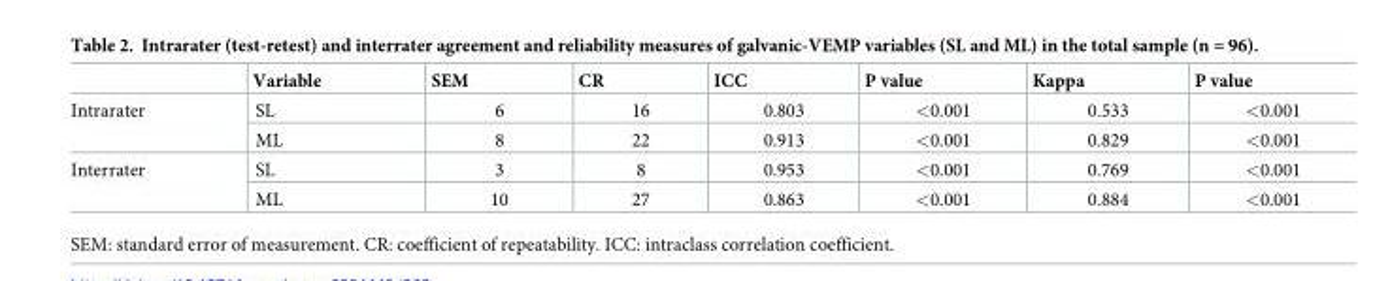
<table><thead><tr><td></td><td>Variable</td><td>SEM</td><td>CR</td><td>ICC</td><td>P value</td><td>Kappa</td><td>P value</td></tr></thead><tbody><tr><td rowspan="2">Intrarater</td><td>SL</td><td>6</td><td>16</td><td>0.803</td><td>&lt;0.001</td><td>0.533</td><td>&lt;0.001</td></tr><tr><td>ML</td><td>8</td><td>22</td><td>0.913</td><td>&lt;0.001</td><td>0.829</td><td>&lt;0.001</td></tr><tr><td rowspan="2">Interrater</td><td>SL</td><td>3</td><td>8</td><td>0.953</td><td>&lt;0.001</td><td>0.769</td><td>&lt;0.001</td></tr><tr><td>ML</td><td>10</td><td>27</td><td>0.863</td><td>&lt;0.001</td><td>0.884</td><td>&lt;0.001</td></tr></tbody></table>